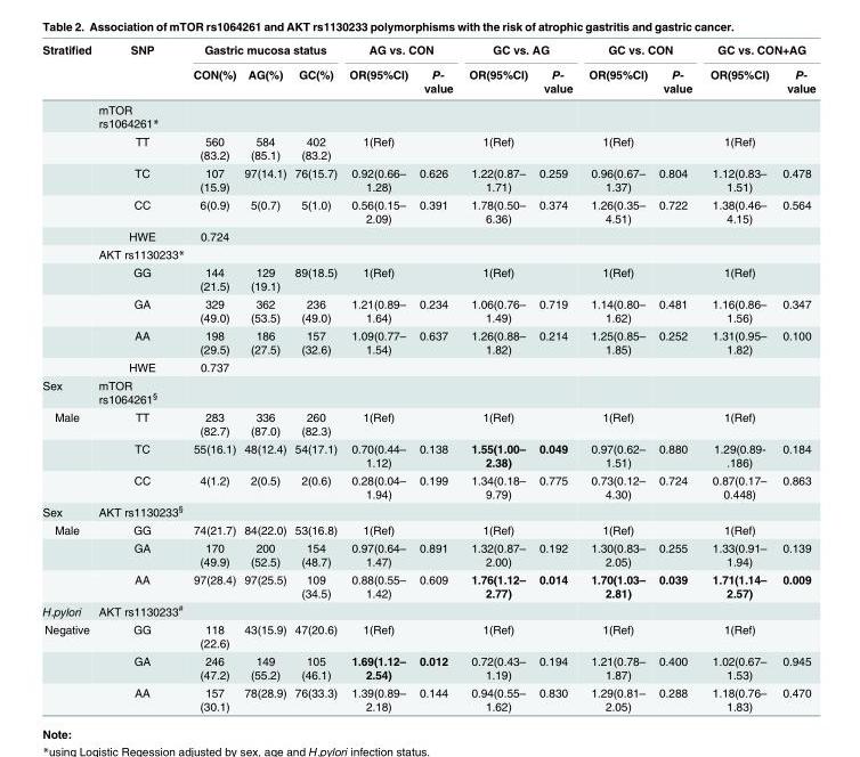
<table><thead><tr><td rowspan="2">Stratified</td><td rowspan="2">SNP</td><td colspan="3">Gastric mucosa status</td><td colspan="2">AG vs. CON</td><td colspan="2">GC vs. AG</td><td colspan="2">GC vs. CON</td><td colspan="2">GC vs. CON+AG</td></tr><tr><td>CON(%)</td><td>AG(%)</td><td>GC(%)</td><td>OR(95%CI)</td><td>P- value</td><td>OR(95%CI)</td><td>P- value</td><td>OR(95%CI)</td><td>P- value</td><td>OR(95%CI)</td><td>P- value</td></tr></thead><tbody><tr><td></td><td>mTOR rs1064261*</td><td></td><td></td><td></td><td></td><td></td><td></td><td></td><td></td><td></td><td></td><td></td></tr><tr><td></td><td>TT</td><td>560 (83.2)</td><td>584 (85.1)</td><td>402 (83.2)</td><td>1(Ref)</td><td></td><td>1(Ref)</td><td></td><td>1(Ref)</td><td></td><td>1(Ref)</td><td></td></tr><tr><td></td><td>TC</td><td>107 (15.9)</td><td>97(14.1)</td><td>76(15.7)</td><td>0.92(0.66– 1.28)</td><td>0.626</td><td>1.22(0.87– 1.71)</td><td>0.259</td><td>0.96(0.67– 1.37)</td><td>0.804</td><td>1.12(0.83– 1.51)</td><td>0.478</td></tr><tr><td></td><td>CC</td><td>6(0.9)</td><td>5(0.7)</td><td>5(1.0)</td><td>0.56(0.15– 2.09)</td><td>0.391</td><td>1.78(0.50– 6.36)</td><td>0.374</td><td>1.26(0.35– 4.51)</td><td>0.722</td><td>1.38(0.46– 4.15)</td><td>0.564</td></tr><tr><td></td><td>HWE</td><td>0.724</td><td></td><td></td><td></td><td></td><td></td><td></td><td></td><td></td><td></td><td></td></tr><tr><td></td><td>AKT rs1130233*</td><td></td><td></td><td></td><td></td><td></td><td></td><td></td><td></td><td></td><td></td><td></td></tr><tr><td></td><td>GG</td><td>144 (21.5)</td><td>129 (19.1)</td><td>89(18.5)</td><td>1(Ref)</td><td></td><td>1(Ref)</td><td></td><td>1(Ref)</td><td></td><td>1(Ref)</td><td></td></tr><tr><td></td><td>GA</td><td>329 (49.0)</td><td>362 (53.5)</td><td>236 (49.0)</td><td>1.21(0.89– 1.64)</td><td>0.234</td><td>1.06(0.76– 1.49)</td><td>0.719</td><td>1.14(0.80– 1.62)</td><td>0.481</td><td>1.16(0.86– 1.56)</td><td>0.347</td></tr><tr><td></td><td>AA</td><td>198 (29.5)</td><td>186 (27.5)</td><td>157 (32.6)</td><td>1.09(0.77– 1.54)</td><td>0.637</td><td>1.26(0.88– 1.82)</td><td>0.214</td><td>1.25(0.85– 1.85)</td><td>0.252</td><td>1.31(0.95– 1.82)</td><td>0.100</td></tr><tr><td></td><td>HWE</td><td>0.737</td><td></td><td></td><td></td><td></td><td></td><td></td><td></td><td></td><td></td><td></td></tr><tr><td>Sex</td><td>mTOR rs1064261<sup>§</sup></td><td></td><td></td><td></td><td></td><td></td><td></td><td></td><td></td><td></td><td></td><td></td></tr><tr><td rowspan="3">Male</td><td>TT</td><td>283 (82.7)</td><td>336 (87.0)</td><td>260 (82.3)</td><td>1(Ref)</td><td></td><td>1(Ref)</td><td></td><td>1(Ref)</td><td></td><td>1(Ref)</td><td></td></tr><tr><td>TC</td><td>55(16.1)</td><td>48(12.4)</td><td>54(17.1)</td><td>0.70(0.44– 1.12)</td><td>0.138</td><td>1.55(1.00– 2.38)</td><td>0.049</td><td>0.97(0.62– 1.51)</td><td>0.880</td><td>1.29(0.89- .186)</td><td>0.184</td></tr><tr><td>CC</td><td>4(1.2)</td><td>2(0.5)</td><td>2(0.6)</td><td>0.28(0.04– 1.94)</td><td>0.199</td><td>1.34(0.18– 9.79)</td><td>0.775</td><td>0.73(0.12– 4.30)</td><td>0.724</td><td>0.87(0.17– 0.448)</td><td>0.863</td></tr><tr><td>Sex</td><td>AKT rs1130233<sup>§</sup></td><td></td><td></td><td></td><td></td><td></td><td></td><td></td><td></td><td></td><td></td><td></td></tr><tr><td rowspan="3">Male</td><td>GG</td><td>74(21.7)</td><td>84(22.0)</td><td>53(16.8)</td><td>1(Ref)</td><td></td><td>1(Ref)</td><td></td><td>1(Ref)</td><td></td><td>1(Ref)</td><td></td></tr><tr><td>GA</td><td>170 (49.9)</td><td>200 (52.5)</td><td>154 (48.7)</td><td>0.97(0.64– 1.47)</td><td>0.891</td><td>1.32(0.87– 2.00)</td><td>0.192</td><td>1.30(0.83– 2.05)</td><td>0.255</td><td>1.33(0.91– 1.94)</td><td>0.139</td></tr><tr><td>AA</td><td>97(28.4)</td><td>97(25.5)</td><td>109 (34.5)</td><td>0.88(0.55– 1.42)</td><td>0.609</td><td>1.76(1.12– 2.77)</td><td>0.014</td><td>1.70(1.03– 2.81)</td><td>0.039</td><td>1.71(1.14– 2.57)</td><td>0.009</td></tr><tr><td>H.pylori</td><td>AKT rs1130233<sup>#</sup></td><td></td><td></td><td></td><td></td><td></td><td></td><td></td><td></td><td></td><td></td><td></td></tr><tr><td rowspan="3">Negative</td><td>GG</td><td>118 (22.6)</td><td>43(15.9)</td><td>47(20.6)</td><td>1(Ref)</td><td></td><td>1(Ref)</td><td></td><td>1(Ref)</td><td></td><td>1(Ref)</td><td></td></tr><tr><td>GA</td><td>246 (47.2)</td><td>149 (55.2)</td><td>105 (46.1)</td><td>1.69(1.12– 2.54)</td><td>0.012</td><td>0.72(0.43– 1.19)</td><td>0.194</td><td>1.21(0.78– 1.87)</td><td>0.400</td><td>1.02(0.67– 1.53)</td><td>0.945</td></tr><tr><td>AA</td><td>157 (30.1)</td><td>78(28.9)</td><td>76(33.3)</td><td>1.39(0.89– 2.18)</td><td>0.144</td><td>0.94(0.55– 1.62)</td><td>0.830</td><td>1.29(0.81– 2.05)</td><td>0.288</td><td>1.18(0.76– 1.83)</td><td>0.470</td></tr></tbody></table>